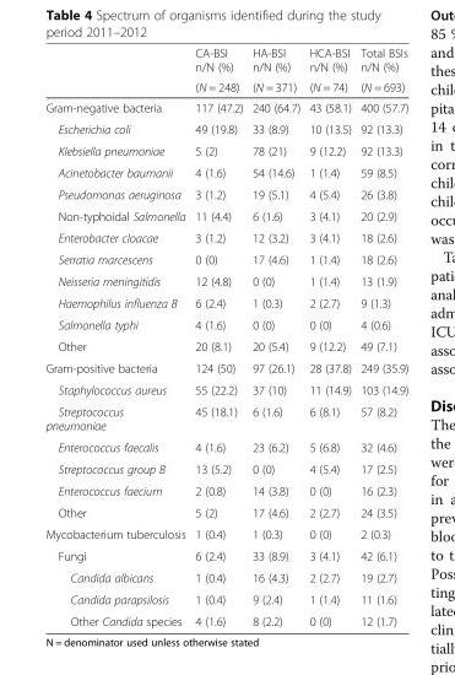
<table><thead><tr><td rowspan="2"></td><td rowspan="2">CA-BSI n/N (%) (N = 248)</td><td rowspan="2">HA-BSI n/N (%) (N = 371)</td><td rowspan="2">HCA-BSI n/N (%) (N = 74)</td><td rowspan="2">Total BSIs n/N (%) (N = 693)</td></tr><tr></tr></thead><tbody><tr><td>Gram-negative bacteria</td><td>117 (47.2)</td><td>240 (64.7)</td><td>43 (58.1)</td><td>400 (57.7)</td></tr><tr><td>Escherichia coli</td><td>49 (19.8)</td><td>33 (8.9)</td><td>10 (13.5)</td><td>92 (13.3)</td></tr><tr><td>Klebsiella pneumoniae</td><td>5 (2)</td><td>78 (21)</td><td>9 (12.2)</td><td>92 (13.3)</td></tr><tr><td>Acinetobacter baumanii</td><td>4 (1.6)</td><td>54 (14.6)</td><td>1 (1.4)</td><td>59 (8.5)</td></tr><tr><td>Pseudomonas aeruginosa</td><td>3 (1.2)</td><td>19 (5.1)</td><td>4 (5.4)</td><td>26 (3.8)</td></tr><tr><td>Non-typhoidal Salmonella</td><td>11 (4.4)</td><td>6 (1.6)</td><td>3 (4.1)</td><td>20 (2.9)</td></tr><tr><td>Enterobacter cloacae</td><td>3 (1.2)</td><td>12 (3.2)</td><td>3 (4.1)</td><td>18 (2.6)</td></tr><tr><td>Serratia marcescens</td><td>0 (0)</td><td>17 (4.6)</td><td>1 (1.4)</td><td>18 (2.6)</td></tr><tr><td>Neisseria meningitidis</td><td>12 (4.8)</td><td>0 (0)</td><td>1 (1.4)</td><td>13 (1.9)</td></tr><tr><td>Haemophilus influenza B</td><td>6 (2.4)</td><td>1 (0.3)</td><td>2 (2.7)</td><td>9 (1.3)</td></tr><tr><td>Salmonella typhi</td><td>4 (1.6)</td><td>0 (0)</td><td>0 (0)</td><td>4 (0.6)</td></tr><tr><td>Other</td><td>20 (8.1)</td><td>20 (5.4)</td><td>9 (12.2)</td><td>49 (7.1)</td></tr><tr><td>Gram-positive bacteria</td><td>124 (50)</td><td>97 (26.1)</td><td>28 (37.8)</td><td>249 (35.9)</td></tr><tr><td>Staphylococcus aureus</td><td>55 (22.2)</td><td>37 (10)</td><td>11 (14.9)</td><td>103 (14.9)</td></tr><tr><td>Streptococcus pneumoniae</td><td>45 (18.1)</td><td>6 (1.6)</td><td>6 (8.1)</td><td>57 (8.2)</td></tr><tr><td>Enterococcus faecalis</td><td>4 (1.6)</td><td>23 (6.2)</td><td>5 (6.8)</td><td>32 (4.6)</td></tr><tr><td>Streptococcus group B</td><td>13 (5.2)</td><td>0 (0)</td><td>4 (5.4)</td><td>17 (2.5)</td></tr><tr><td>Enterococcus faecium</td><td>2 (0.8)</td><td>14 (3.8)</td><td>0 (0)</td><td>16 (2.3)</td></tr><tr><td>Other</td><td>5 (2)</td><td>17 (4.6)</td><td>2 (2.7)</td><td>24 (3.5)</td></tr><tr><td>Mycobacterium tuberculosis</td><td>1 (0.4)</td><td>1 (0.3)</td><td>0 (0)</td><td>2 (0.3)</td></tr><tr><td>Fungi</td><td>6 (2.4)</td><td>33 (8.9)</td><td>3 (4.1)</td><td>42 (6.1)</td></tr><tr><td>Candida albicans</td><td>1 (0.4)</td><td>16 (4.3)</td><td>2 (2.7)</td><td>19 (2.7)</td></tr><tr><td>Candida parapsilosis</td><td>1 (0.4)</td><td>9 (2.4)</td><td>1 (1.4)</td><td>11 (1.6)</td></tr><tr><td>Other Candida species</td><td>4 (1.6)</td><td>8 (2.2)</td><td>0 (0)</td><td>12 (1.7)</td></tr></tbody></table>